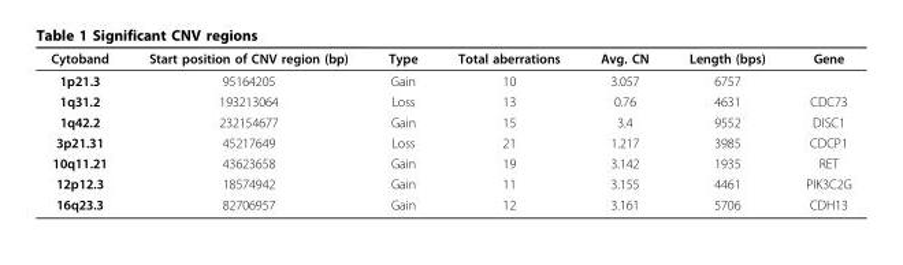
<table><thead><tr><td>Cytoband</td><td>Start position of CNV region (bp)</td><td>Type</td><td>Total aberrations</td><td>Avg. CN</td><td>Length (bps)</td><td>Gene</td></tr></thead><tbody><tr><td>1p21.3</td><td>95164205</td><td>Gain</td><td>10</td><td>3.057</td><td>6757</td><td></td></tr><tr><td>1q31.2</td><td>193213064</td><td>Loss</td><td>13</td><td>0.76</td><td>4631</td><td>CDC73</td></tr><tr><td>1q42.2</td><td>232154677</td><td>Gain</td><td>15</td><td>3.4</td><td>9552</td><td>DISC1</td></tr><tr><td>3p21.31</td><td>45217649</td><td>Loss</td><td>21</td><td>1.217</td><td>3985</td><td>CDCP1</td></tr><tr><td>10q11.21</td><td>43623658</td><td>Gain</td><td>19</td><td>3.142</td><td>1935</td><td>RET</td></tr><tr><td>12p12.3</td><td>18574942</td><td>Gain</td><td>11</td><td>3.155</td><td>4461</td><td>PIK3C2G</td></tr><tr><td>16q23.3</td><td>82706957</td><td>Gain</td><td>12</td><td>3.161</td><td>5706</td><td>CDH13</td></tr></tbody></table>